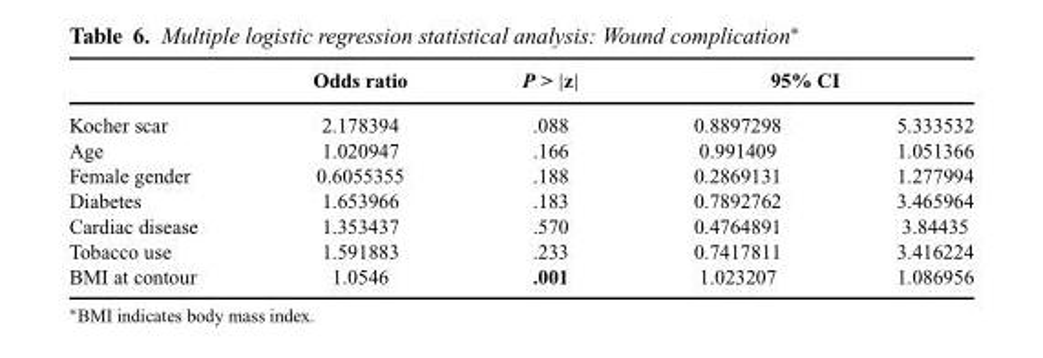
<table><thead><tr><td rowspan="2">Kocher scar</td><td rowspan="2">Odds ratio 2.178394</td><td rowspan="2">P &gt; |z| .088</td><td colspan="2">95% CI</td></tr><tr><td>0.8897298</td><td>5.333532</td></tr></thead><tbody><tr><td>Age</td><td>1.020947</td><td>.166</td><td>0.991409</td><td>1.051366</td></tr><tr><td>Female gender</td><td>0.6055355</td><td>.188</td><td>0.2869131</td><td>1.277994</td></tr><tr><td>Diabetes</td><td>1.653966</td><td>.183</td><td>0.7892762</td><td>3.465964</td></tr><tr><td>Cardiac disease</td><td>1.353437</td><td>.570</td><td>0.4764891</td><td>3.84435</td></tr><tr><td>Tobacco use</td><td>1.591883</td><td>.233</td><td>0.7417811</td><td>3.416224</td></tr><tr><td>BMI at contour</td><td>1.0546</td><td>.001</td><td>1.023207</td><td>1.086956</td></tr></tbody></table>